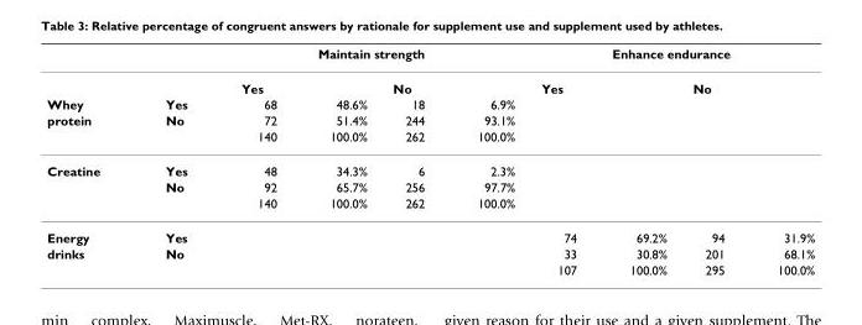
<table><thead><tr><td rowspan="2"></td><td rowspan="2"></td><td colspan="4">Maintain strength</td><td colspan="4">Enhance endurance</td></tr><tr><td>Yes</td><td></td><td>No</td><td></td><td>Yes</td><td></td><td>No</td><td></td></tr></thead><tbody><tr><td>Whey</td><td>Yes</td><td>68</td><td>48.6%</td><td>18</td><td>6.9%</td><td></td><td></td><td></td><td></td></tr><tr><td rowspan="2">protein</td><td>No</td><td>72</td><td>51.4%</td><td>244</td><td>93.1%</td><td></td><td></td><td></td><td></td></tr><tr><td></td><td>140</td><td>100.0%</td><td>262</td><td>100.0%</td><td></td><td></td><td></td><td></td></tr><tr><td rowspan="3">Creatine</td><td>Yes</td><td>48</td><td>34.3%</td><td>6</td><td>2.3%</td><td></td><td></td><td></td><td></td></tr><tr><td>No</td><td>92</td><td>65.7%</td><td>256</td><td>97.7%</td><td></td><td></td><td></td><td></td></tr><tr><td></td><td>140</td><td>100.0%</td><td>262</td><td>100.0%</td><td></td><td></td><td></td><td></td></tr><tr><td>Energy</td><td>Yes</td><td></td><td></td><td></td><td></td><td>74</td><td>69.2%</td><td>94</td><td>31.9%</td></tr><tr><td rowspan="2">drinks</td><td>No</td><td></td><td></td><td></td><td></td><td>33</td><td>30.8%</td><td>201</td><td>68.1%</td></tr><tr><td></td><td></td><td></td><td></td><td></td><td>107</td><td>100.0%</td><td>295</td><td>100.0%</td></tr></tbody></table>